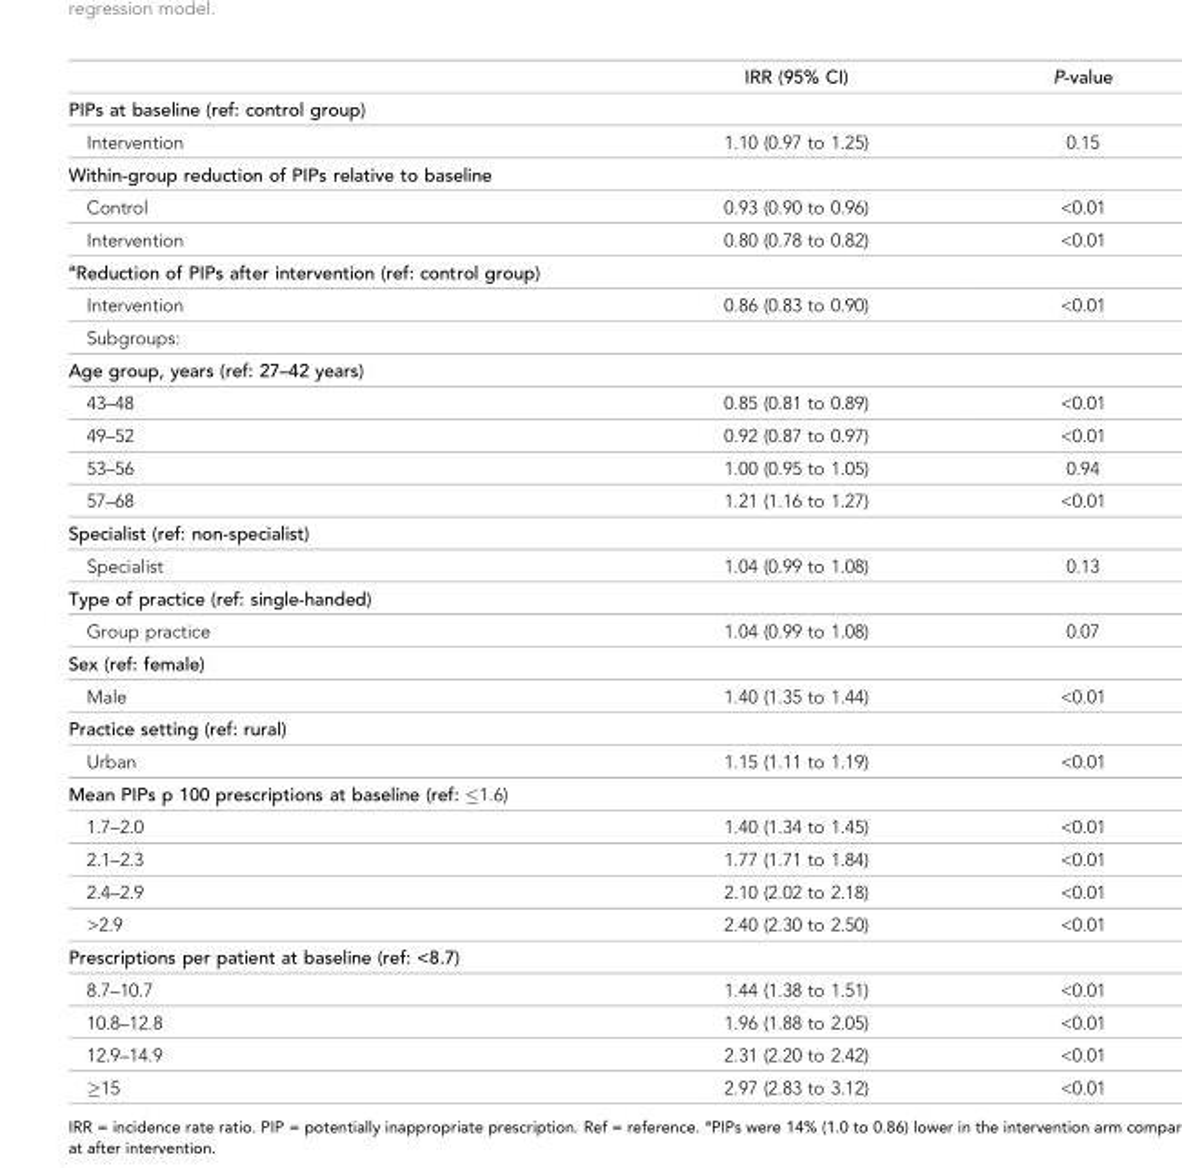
<table><thead><tr><td></td><td>IRR (95% CI)</td><td>P-value</td></tr></thead><tbody><tr><td colspan="3">PIPs at baseline (ref: control group)</td></tr><tr><td>Intervention</td><td>1.10 (0.97 to 1.25)</td><td>0.15</td></tr><tr><td colspan="3">Within-group reduction of PIPs relative to baseline</td></tr><tr><td>Control</td><td>0.93 (0.90 to 0.96)</td><td>&lt;0.01</td></tr><tr><td>Intervention</td><td>0.80 (0.78 to 0.82)</td><td>&lt;0.01</td></tr><tr><td colspan="3"><sup>a</sup>Reduction of PIPs after intervention (ref: control group)</td></tr><tr><td>Intervention</td><td>0.86 (0.83 to 0.90)</td><td>&lt;0.01</td></tr><tr><td colspan="3">Subgroups:</td></tr><tr><td colspan="3">Age group, years (ref: 27–42 years)</td></tr><tr><td>43–48</td><td>0.85 (0.81 to 0.89)</td><td>&lt;0.01</td></tr><tr><td>49–52</td><td>0.92 (0.87 to 0.97)</td><td>&lt;0.01</td></tr><tr><td>53–56</td><td>1.00 (0.95 to 1.05)</td><td>0.94</td></tr><tr><td>57–68</td><td>1.21 (1.16 to 1.27)</td><td>&lt;0.01</td></tr><tr><td colspan="3">Specialist (ref: non-specialist)</td></tr><tr><td>Specialist</td><td>1.04 (0.99 to 1.08)</td><td>0.13</td></tr><tr><td colspan="3">Type of practice (ref: single-handed)</td></tr><tr><td>Group practice</td><td>1.04 (0.99 to 1.08)</td><td>0.07</td></tr><tr><td colspan="3">Sex (ref: female)</td></tr><tr><td>Male</td><td>1.40 (1.35 to 1.44)</td><td>&lt;0.01</td></tr><tr><td colspan="3">Practice setting (ref: rural)</td></tr><tr><td>Urban</td><td>1.15 (1.11 to 1.19)</td><td>&lt;0.01</td></tr><tr><td colspan="3">Mean PIPs p 100 prescriptions at baseline (ref: ≤1.6)</td></tr><tr><td>1.7–2.0</td><td>1.40 (1.34 to 1.45)</td><td>&lt;0.01</td></tr><tr><td>2.1–2.3</td><td>1.77 (1.71 to 1.84)</td><td>&lt;0.01</td></tr><tr><td>2.4–2.9</td><td>2.10 (2.02 to 2.18)</td><td>&lt;0.01</td></tr><tr><td>&gt;2.9</td><td>2.40 (2.30 to 2.50)</td><td>&lt;0.01</td></tr><tr><td colspan="3">Prescriptions per patient at baseline (ref: &lt;8.7)</td></tr><tr><td>8.7–10.7</td><td>1.44 (1.38 to 1.51)</td><td>&lt;0.01</td></tr><tr><td>10.8–12.8</td><td>1.96 (1.88 to 2.05)</td><td>&lt;0.01</td></tr><tr><td>12.9–14.9</td><td>2.31 (2.20 to 2.42)</td><td>&lt;0.01</td></tr><tr><td>≥15</td><td>2.97 (2.83 to 3.12)</td><td>&lt;0.01</td></tr></tbody></table>